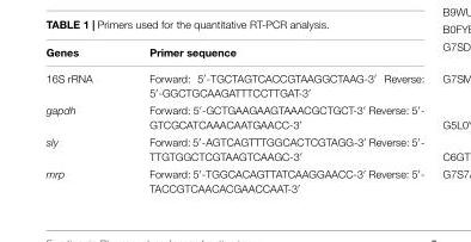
<table><thead><tr><td>Genes</td><td>Primer sequence</td></tr></thead><tbody><tr><td>16S rRNA</td><td>Forward: 5′-TGCTAGTCACCGTAAGGCTAAG-3′ Reverse: 5′-GGCTGCAAGATTTCCTTGAT-3′</td></tr><tr><td>gapdh</td><td>Forward: 5′-GCTGAAGAAGTAAACGCTGCT-3′ Reverse: 5′- GTCGCATCAAACAATGAACC-3′</td></tr><tr><td>sly</td><td>Forward: 5′-AGTCAGTTTGGCACTCGTAGG-3′ Reverse: 5′- TTGTGGCTCGTAAGTCAAGC-3′</td></tr><tr><td>mrp</td><td>Forward: 5′-TGGCACAGTTATCAAGGAACC-3′ Reverse: 5′- TACCGTCAACACGAACCAAT-3′</td></tr></tbody></table>